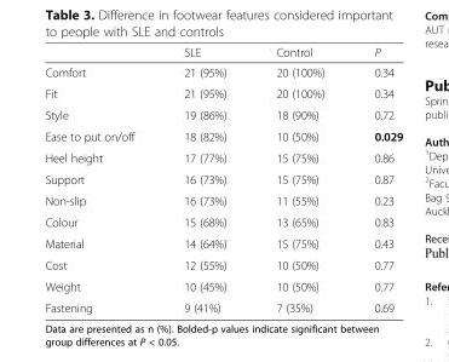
<table><thead><tr><td></td><td>SLE</td><td>Control</td><td>P</td></tr></thead><tbody><tr><td>Comfort</td><td>21 (95%)</td><td>20 (100%)</td><td>0.34</td></tr><tr><td>Fit</td><td>21 (95%)</td><td>20 (100%)</td><td>0.34</td></tr><tr><td>Style</td><td>19 (86%)</td><td>18 (90%)</td><td>0.72</td></tr><tr><td>Ease to put on/off</td><td>18 (82%)</td><td>10 (50%)</td><td>0.029</td></tr><tr><td>Heel height</td><td>17 (77%)</td><td>15 (75%)</td><td>0.86</td></tr><tr><td>Support</td><td>16 (73%)</td><td>15 (75%)</td><td>0.87</td></tr><tr><td>Non-slip</td><td>16 (73%)</td><td>11 (55%)</td><td>0.23</td></tr><tr><td>Colour</td><td>15 (68%)</td><td>13 (65%)</td><td>0.83</td></tr><tr><td>Material</td><td>14 (64%)</td><td>15 (75%)</td><td>0.43</td></tr><tr><td>Cost</td><td>12 (55%)</td><td>10 (50%)</td><td>0.77</td></tr><tr><td>Weight</td><td>10 (45%)</td><td>10 (50%)</td><td>0.77</td></tr><tr><td>Fastening</td><td>9 (41%)</td><td>7 (35%)</td><td>0.69</td></tr></tbody></table>